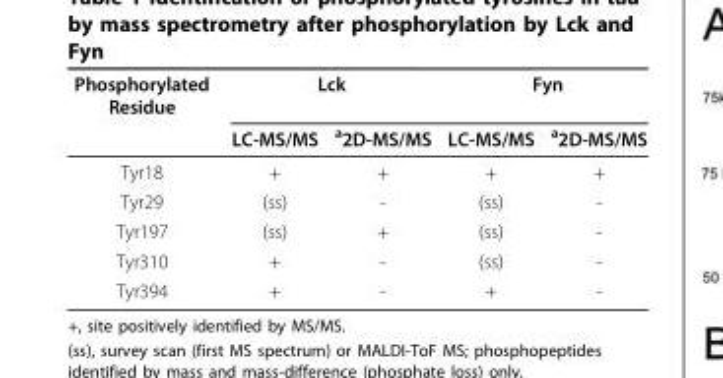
<table><thead><tr><td rowspan="2">Phosphorylated Residue</td><td colspan="2">Lck</td><td colspan="2">Fyn</td></tr><tr><td>LC-MS/MS</td><td><sup>a</sup>2D-MS/MS</td><td>LC-MS/MS</td><td><sup>a</sup>2D-MS/MS</td></tr></thead><tbody><tr><td>Tyr18</td><td>+</td><td>+</td><td>+</td><td>+</td></tr><tr><td>Tyr29</td><td>(ss)</td><td>-</td><td>(ss)</td><td>-</td></tr><tr><td>Tyr197</td><td>(ss)</td><td>+</td><td>(ss)</td><td>-</td></tr><tr><td>Tyr310</td><td>+</td><td>-</td><td>(ss)</td><td>-</td></tr><tr><td>Tyr394</td><td>+</td><td>-</td><td>+</td><td>-</td></tr></tbody></table>